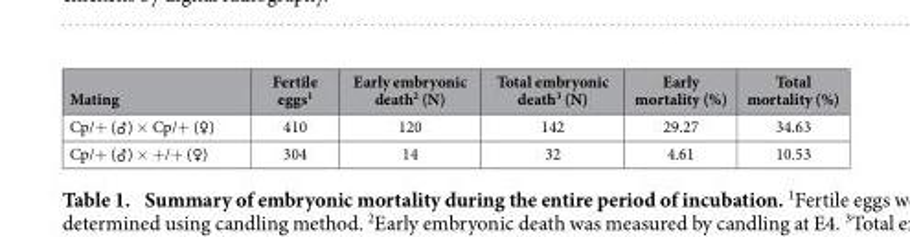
<table><thead><tr><td>Mating</td><td>Fertile eggs<sup>1</sup></td><td>Early embryonic death<sup>2</sup> (N)</td><td>Total embryonic death<sup>3</sup> (N)</td><td>Early mortality (%)</td><td>Total mortality (%)</td></tr></thead><tbody><tr><td>Cp/+ (♂) × Cp/+ (♀ )</td><td>410</td><td>120</td><td>142</td><td>29.27</td><td>34.63</td></tr><tr><td>Cp/+ (♂) × + /+ (♀ )</td><td>304</td><td>14</td><td>32</td><td>4.61</td><td>10.53</td></tr></tbody></table>